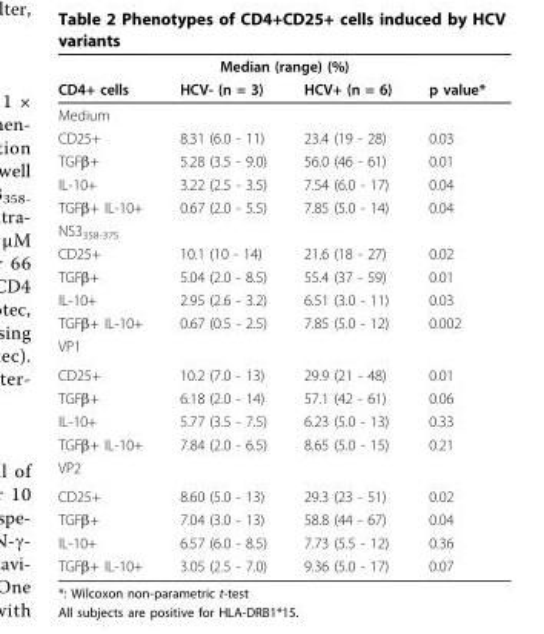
<table><thead><tr><td colspan="4">Median (range) (%)</td></tr><tr><td>CD4+ cells</td><td>HCV- (n = 3)</td><td>HCV+ (n = 6)</td><td>p value*</td></tr></thead><tbody><tr><td colspan="4">Medium</td></tr><tr><td>CD25+</td><td>8.31 (6.0 - 11)</td><td>23.4 (19 - 28)</td><td>0.03</td></tr><tr><td>TGFβ+</td><td>5.28 (3.5 - 9.0)</td><td>56.0 (46 - 61)</td><td>0.01</td></tr><tr><td>IL-10+</td><td>3.22 (2.5 - 3.5)</td><td>7.54 (6.0 - 17)</td><td>0.04</td></tr><tr><td>TGFβ+ IL-10+</td><td>0.67 (2.0 - 5.5)</td><td>7.85 (5.0 - 14)</td><td>0.04</td></tr><tr><td colspan="4">NS3<sub>358-375</sub></td></tr><tr><td>CD25+</td><td>10.1 (10 - 14)</td><td>21.6 (18 - 27)</td><td>0.02</td></tr><tr><td>TGFβ+</td><td>5.04 (2.0 - 8.5)</td><td>55.4 (37 - 59)</td><td>0.01</td></tr><tr><td>IL-10+</td><td>2.95 (2.6 - 3.2)</td><td>6.51 (3.0 - 11)</td><td>0.03</td></tr><tr><td>TGFβ+ IL-10+</td><td>0.67 (0.5 - 2.5)</td><td>7.85 (5.0 - 12)</td><td>0.002</td></tr><tr><td colspan="4">VP1</td></tr><tr><td>CD25+</td><td>10.2 (7.0 - 13)</td><td>29.9 (21 - 48)</td><td>0.01</td></tr><tr><td>TGFβ+</td><td>6.18 (2.0 - 14)</td><td>57.1 (42 - 61)</td><td>0.06</td></tr><tr><td>IL-10+</td><td>5.77 (3.5 - 7.5)</td><td>6.23 (5.0 - 13)</td><td>0.33</td></tr><tr><td>TGFβ+ IL-10+</td><td>7.84 (2.0 - 6.5)</td><td>8.65 (5.0 - 15)</td><td>0.21</td></tr><tr><td colspan="4">VP2</td></tr><tr><td>CD25+</td><td>8.60 (5.0 - 13)</td><td>29.3 (23 - 51)</td><td>0.02</td></tr><tr><td>TGFβ+</td><td>7.04 (3.0 - 13)</td><td>58.8 (44 - 67)</td><td>0.04</td></tr><tr><td>IL-10+</td><td>6.57 (6.0 - 8.5)</td><td>7.73 (5.5 - 12)</td><td>0.36</td></tr><tr><td>TGFβ+ IL-10+</td><td>3.05 (2.5 - 7.0)</td><td>9.36 (5.0 - 17)</td><td>0.07</td></tr></tbody></table>